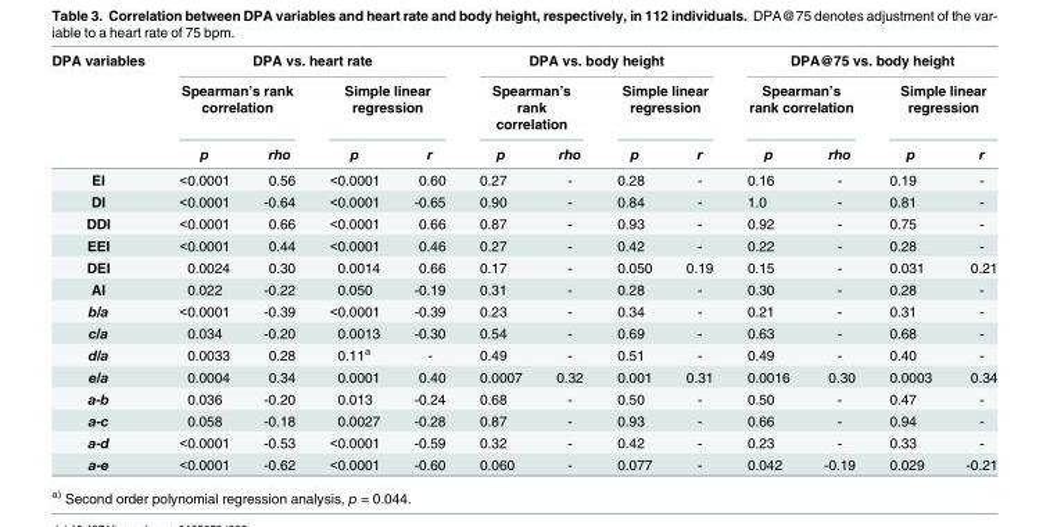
<table><thead><tr><td rowspan="3">DPA variables</td><td colspan="4">DPA vs. heart rate</td><td colspan="4">DPA vs. body height</td><td colspan="4">DPA@75 vs. body height</td></tr><tr><td colspan="2">Spearman’s rank correlation</td><td colspan="2">Simple linear regression</td><td colspan="2">Spearman’s rank correlation</td><td colspan="2">Simple linear regression</td><td colspan="2">Spearman’s rank correlation</td><td colspan="2">Simple linear regression</td></tr><tr><td>p</td><td>rho</td><td>p</td><td>r</td><td>p</td><td>rho</td><td>p</td><td>r</td><td>p</td><td>rho</td><td>p</td><td>r</td></tr></thead><tbody><tr><td>EI</td><td>&lt;0.0001</td><td>0.56</td><td>&lt;0.0001</td><td>0.60</td><td>0.27</td><td>-</td><td>0.28</td><td>-</td><td>0.16</td><td>-</td><td>0.19</td><td>-</td></tr><tr><td>DI</td><td>&lt;0.0001</td><td>-0.64</td><td>&lt;0.0001</td><td>-0.65</td><td>0.90</td><td>-</td><td>0.84</td><td>-</td><td>1.0</td><td>-</td><td>0.81</td><td>-</td></tr><tr><td>DDI</td><td>&lt;0.0001</td><td>0.66</td><td>&lt;0.0001</td><td>0.66</td><td>0.87</td><td>-</td><td>0.93</td><td>-</td><td>0.92</td><td>-</td><td>0.75</td><td>-</td></tr><tr><td>EEI</td><td>&lt;0.0001</td><td>0.44</td><td>&lt;0.0001</td><td>0.46</td><td>0.27</td><td>-</td><td>0.42</td><td>-</td><td>0.22</td><td>-</td><td>0.28</td><td>-</td></tr><tr><td>DEI</td><td>0.0024</td><td>0.30</td><td>0.0014</td><td>0.66</td><td>0.17</td><td>-</td><td>0.050</td><td>0.19</td><td>0.15</td><td>-</td><td>0.031</td><td>0.21</td></tr><tr><td>AI</td><td>0.022</td><td>-0.22</td><td>0.050</td><td>-0.19</td><td>0.31</td><td>-</td><td>0.28</td><td>-</td><td>0.30</td><td>-</td><td>0.28</td><td>-</td></tr><tr><td>b/a</td><td>&lt;0.0001</td><td>-0.39</td><td>&lt;0.0001</td><td>-0.39</td><td>0.23</td><td>-</td><td>0.34</td><td>-</td><td>0.21</td><td>-</td><td>0.31</td><td>-</td></tr><tr><td>c/a</td><td>0.034</td><td>-0.20</td><td>0.0013</td><td>-0.30</td><td>0.54</td><td>-</td><td>0.69</td><td>-</td><td>0.63</td><td>-</td><td>0.68</td><td>-</td></tr><tr><td>d/a</td><td>0.0033</td><td>0.28</td><td>0.11<sup>a</sup></td><td>-</td><td>0.49</td><td>-</td><td>0.51</td><td>-</td><td>0.49</td><td>-</td><td>0.40</td><td>-</td></tr><tr><td>e/a</td><td>0.0004</td><td>0.34</td><td>0.0001</td><td>0.40</td><td>0.0007</td><td>0.32</td><td>0.001</td><td>0.31</td><td>0.0016</td><td>0.30</td><td>0.0003</td><td>0.34</td></tr><tr><td>a-b</td><td>0.036</td><td>-0.20</td><td>0.013</td><td>-0.24</td><td>0.68</td><td>-</td><td>0.50</td><td>-</td><td>0.50</td><td>-</td><td>0.47</td><td>-</td></tr><tr><td>a-c</td><td>0.058</td><td>-0.18</td><td>0.0027</td><td>-0.28</td><td>0.87</td><td>-</td><td>0.93</td><td>-</td><td>0.66</td><td>-</td><td>0.94</td><td>-</td></tr><tr><td>a-d</td><td>&lt;0.0001</td><td>-0.53</td><td>&lt;0.0001</td><td>-0.59</td><td>0.32</td><td>-</td><td>0.42</td><td>-</td><td>0.23</td><td>-</td><td>0.33</td><td>-</td></tr><tr><td>a-e</td><td>&lt;0.0001</td><td>-0.62</td><td>&lt;0.0001</td><td>-0.60</td><td>0.060</td><td>-</td><td>0.077</td><td>-</td><td>0.042</td><td>-0.19</td><td>0.029</td><td>-0.21</td></tr></tbody></table>